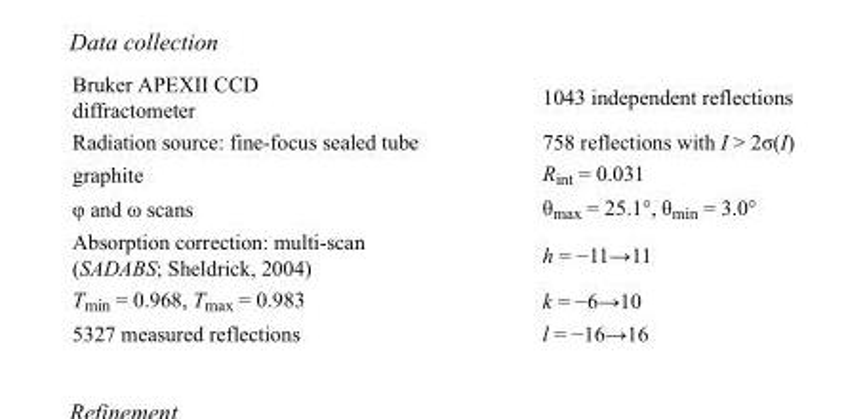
<table><tbody><tr><td>Bruker APEXII CCD diffractometer</td><td>1043 independent reflections</td></tr><tr><td>Radiation source: fine-focus sealed tube</td><td>758 reflections with I &gt; 2σ(I)</td></tr><tr><td>graphite</td><td>R<sub>int</sub> = 0.031</td></tr><tr><td>φ and ω scans</td><td>θ<sub>max</sub> = 25.1°, θ<sub>min</sub> = 3.0°</td></tr><tr><td>Absorption correction: multi-scan (SADABS; Sheldrick, 2004)</td><td>h = −11→11</td></tr><tr><td>T<sub>min</sub> = 0.968, T<sub>max</sub> = 0.983</td><td>k = −6→10</td></tr><tr><td>5327 measured reflections</td><td>l = −16→16</td></tr></tbody></table>